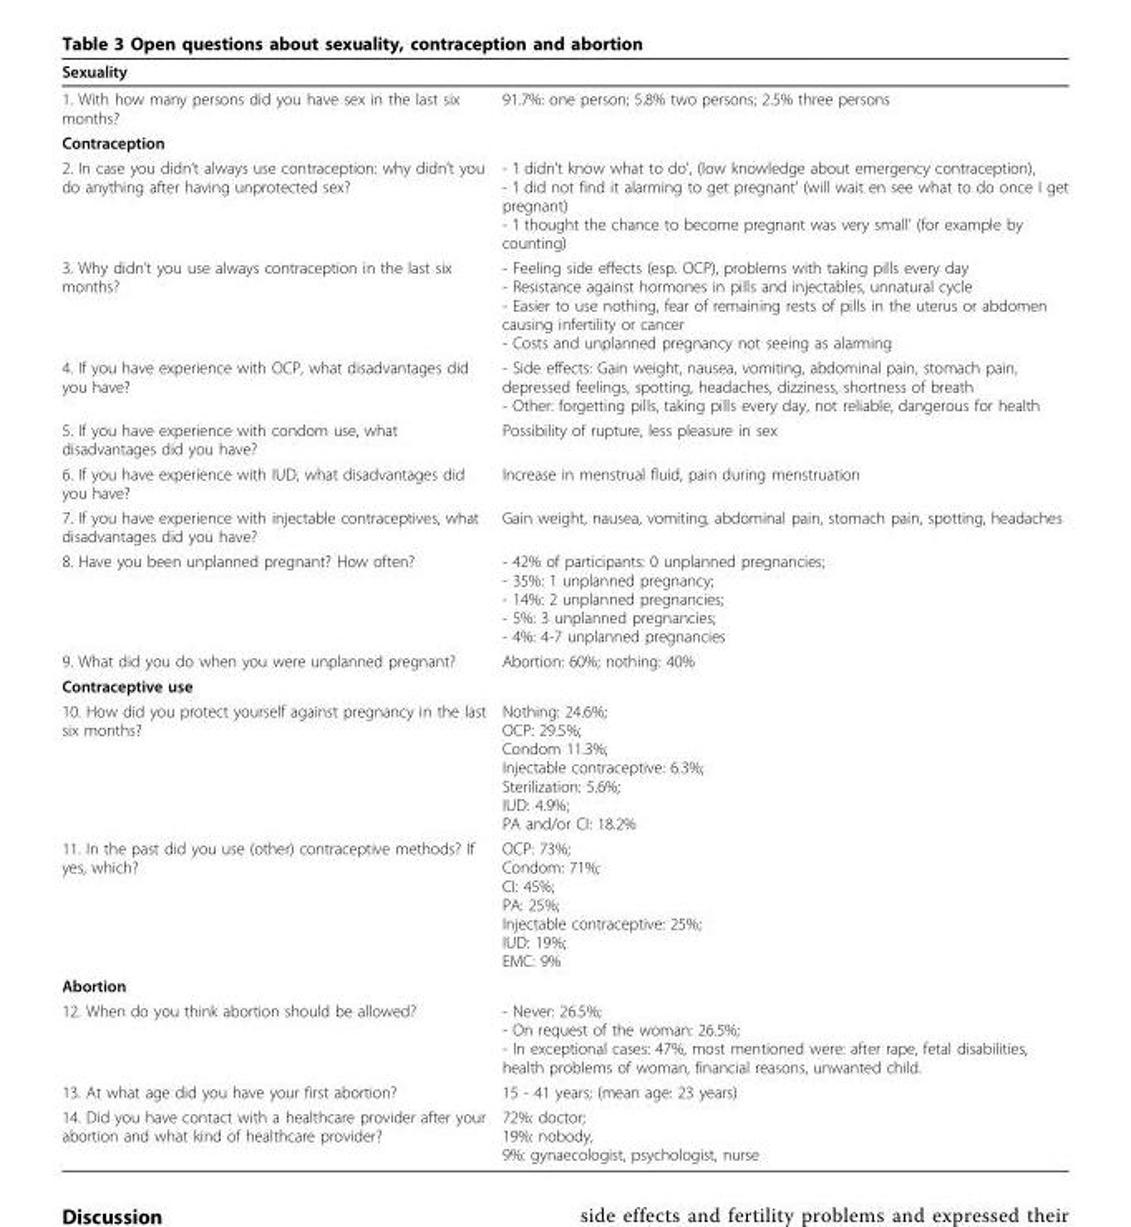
<table><thead><tr><td colspan="2">Sexuality</td></tr><tr><td>1. With how many persons did you have sex in the last six months?</td><td>91.7%: one person; 5.8% two persons; 2.5% three persons</td></tr></thead><tbody><tr><td colspan="2">Contraception</td></tr><tr><td>2. In case you didn’t always use contraception: why didn’t you do anything after having unprotected sex?</td><td>- ‘I didn’t know what to do’, (low knowledge about emergency contraception), - ‘I did not find it alarming to get pregnant’ (will wait en see what to do once I get pregnant) - ‘I thought the chance to become pregnant was very small’ (for example by counting)</td></tr><tr><td>3. Why didn’t you use always contraception in the last six months?</td><td>- Feeling side effects (esp. OCP), problems with taking pills every day - Resistance against hormones in pills and injectables, unnatural cycle - Easier to use nothing, fear of remaining rests of pills in the uterus or abdomen causing infertility or cancer - Costs and unplanned pregnancy not seeing as alarming</td></tr><tr><td>4. If you have experience with OCP, what disadvantages did you have?</td><td>- Side effects: Gain weight, nausea, vomiting, abdominal pain, stomach pain, depressed feelings, spotting, headaches, dizziness, shortness of breath - Other: forgetting pills, taking pills every day, not reliable, dangerous for health</td></tr><tr><td>5. If you have experience with condom use, what disadvantages did you have?</td><td>Possibility of rupture, less pleasure in sex</td></tr><tr><td>6. If you have experience with IUD, what disadvantages did you have?</td><td>Increase in menstrual fluid, pain during menstruation</td></tr><tr><td>7. If you have experience with injectable contraceptives, what disadvantages did you have?</td><td>Gain weight, nausea, vomiting, abdominal pain, stomach pain, spotting, headaches</td></tr><tr><td>8. Have you been unplanned pregnant? How often?</td><td>- 42% of participants: 0 unplanned pregnancies; - 35%: 1 unplanned pregnancy; - 14%: 2 unplanned pregnancies; - 5%: 3 unplanned pregnancies; - 4%: 4-7 unplanned pregnancies</td></tr><tr><td>9. What did you do when you were unplanned pregnant?</td><td>Abortion: 60%; nothing: 40%</td></tr><tr><td colspan="2">Contraceptive use</td></tr><tr><td>10. How did you protect yourself against pregnancy in the last six months?</td><td>Nothing: 24.6%; OCP: 29.5%; Condom 11.3%; Injectable contraceptive: 6.3%; Sterilization: 5.6%; IUD: 4.9%; PA and/or CI: 18.2%</td></tr><tr><td>11. In the past did you use (other) contraceptive methods? If yes, which?</td><td>OCP: 73%; Condom: 71%; CI: 45%; PA: 25%; Injectable contraceptive: 25%; IUD: 19%; EMC: 9%</td></tr><tr><td colspan="2">Abortion</td></tr><tr><td>12. When do you think abortion should be allowed?</td><td>- Never: 26.5%; - On request of the woman: 26.5%; - In exceptional cases: 47%, most mentioned were: after rape, fetal disabilities, health problems of woman, financial reasons, unwanted child.</td></tr><tr><td>13. At what age did you have your first abortion?</td><td>15 - 41 years; (mean age: 23 years)</td></tr><tr><td>14. Did you have contact with a healthcare provider after your abortion and what kind of healthcare provider?</td><td>72%: doctor; 19%: nobody, 9%: gynaecologist, psychologist, nurse</td></tr></tbody></table>